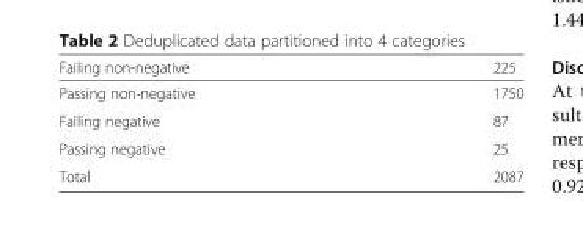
<table><thead><tr><td>Failing non-negative</td><td>225</td></tr></thead><tbody><tr><td>Passing non-negative</td><td>1750</td></tr><tr><td>Failing negative</td><td>87</td></tr><tr><td>Passing negative</td><td>25</td></tr><tr><td>Total</td><td>2087</td></tr></tbody></table>